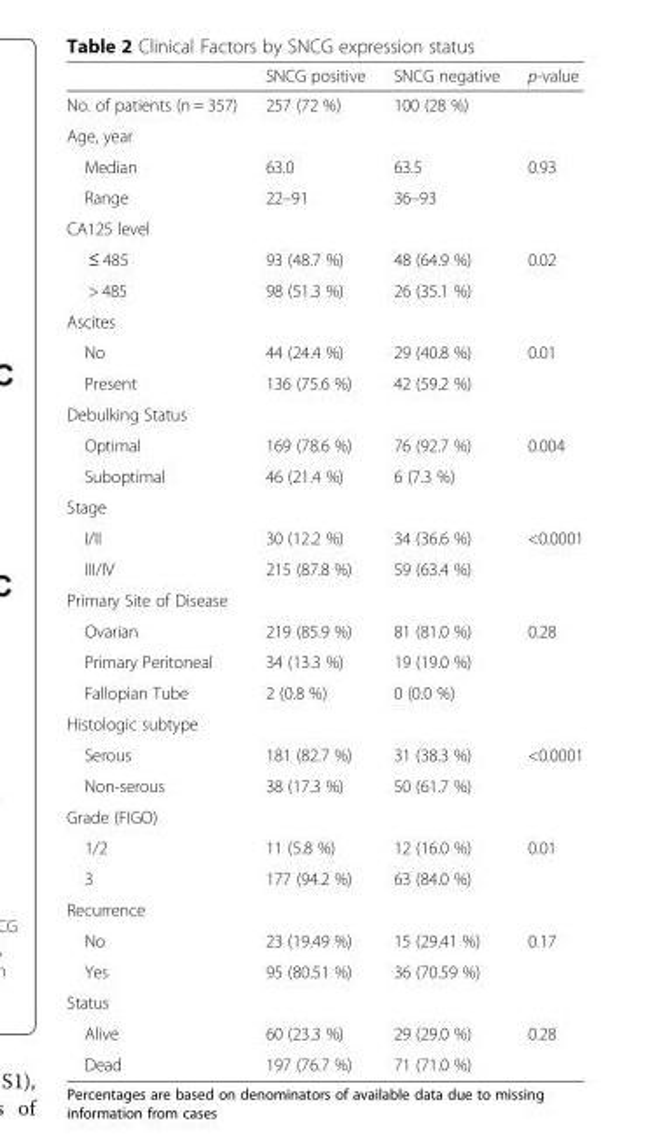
<table><thead><tr><td></td><td>SNCG positive</td><td>SNCG negative</td><td>p-value</td></tr></thead><tbody><tr><td>No. of patients (n = 357)</td><td>257 (72 %)</td><td>100 (28 %)</td><td></td></tr><tr><td colspan="4">Age, year</td></tr><tr><td>Median</td><td>63.0</td><td>63.5</td><td rowspan="2">0.93</td></tr><tr><td>Range</td><td>22–91</td><td>36–93</td></tr><tr><td colspan="4">CA125 level</td></tr><tr><td>≤ 485</td><td>93 (48.7 %)</td><td>48 (64.9 %)</td><td rowspan="2">0.02</td></tr><tr><td>&gt; 485</td><td>98 (51.3 %)</td><td>26 (35.1 %)</td></tr><tr><td colspan="4">Ascites</td></tr><tr><td>No</td><td>44 (24.4 %)</td><td>29 (40.8 %)</td><td rowspan="2">0.01</td></tr><tr><td>Present</td><td>136 (75.6 %)</td><td>42 (59.2 %)</td></tr><tr><td colspan="4">Debulking Status</td></tr><tr><td>Optimal</td><td>169 (78.6 %)</td><td>76 (92.7 %)</td><td rowspan="2">0.004</td></tr><tr><td>Suboptimal</td><td>46 (21.4 %)</td><td>6 (7.3 %)</td></tr><tr><td colspan="4">Stage</td></tr><tr><td>I/II</td><td>30 (12.2 %)</td><td>34 (36.6 %)</td><td rowspan="2">&lt;0.0001</td></tr><tr><td>III/IV</td><td>215 (87.8 %)</td><td>59 (63.4 %)</td></tr><tr><td colspan="4">Primary Site of Disease</td></tr><tr><td>Ovarian</td><td>219 (85.9 %)</td><td>81 (81.0 %)</td><td rowspan="3">0.28</td></tr><tr><td>Primary Peritoneal</td><td>34 (13.3 %)</td><td>19 (19.0 %)</td></tr><tr><td>Fallopian Tube</td><td>2 (0.8 %)</td><td>0 (0.0 %)</td></tr><tr><td colspan="4">Histologic subtype</td></tr><tr><td>Serous</td><td>181 (82.7 %)</td><td>31 (38.3 %)</td><td rowspan="2">&lt;0.0001</td></tr><tr><td>Non-serous</td><td>38 (17.3 %)</td><td>50 (61.7 %)</td></tr><tr><td colspan="4">Grade (FIGO)</td></tr><tr><td>1/2</td><td>11 (5.8 %)</td><td>12 (16.0 %)</td><td rowspan="2">0.01</td></tr><tr><td>3</td><td>177 (94.2 %)</td><td>63 (84.0 %)</td></tr><tr><td colspan="4">Recurrence</td></tr><tr><td>No</td><td>23 (19.49 %)</td><td>15 (29.41 %)</td><td rowspan="2">0.17</td></tr><tr><td>Yes</td><td>95 (80.51 %)</td><td>36 (70.59 %)</td></tr><tr><td colspan="4">Status</td></tr><tr><td>Alive</td><td>60 (23.3 %)</td><td>29 (29.0 %)</td><td rowspan="2">0.28</td></tr><tr><td>Dead</td><td>197 (76.7 %)</td><td>71 (71.0 %)</td></tr></tbody></table>